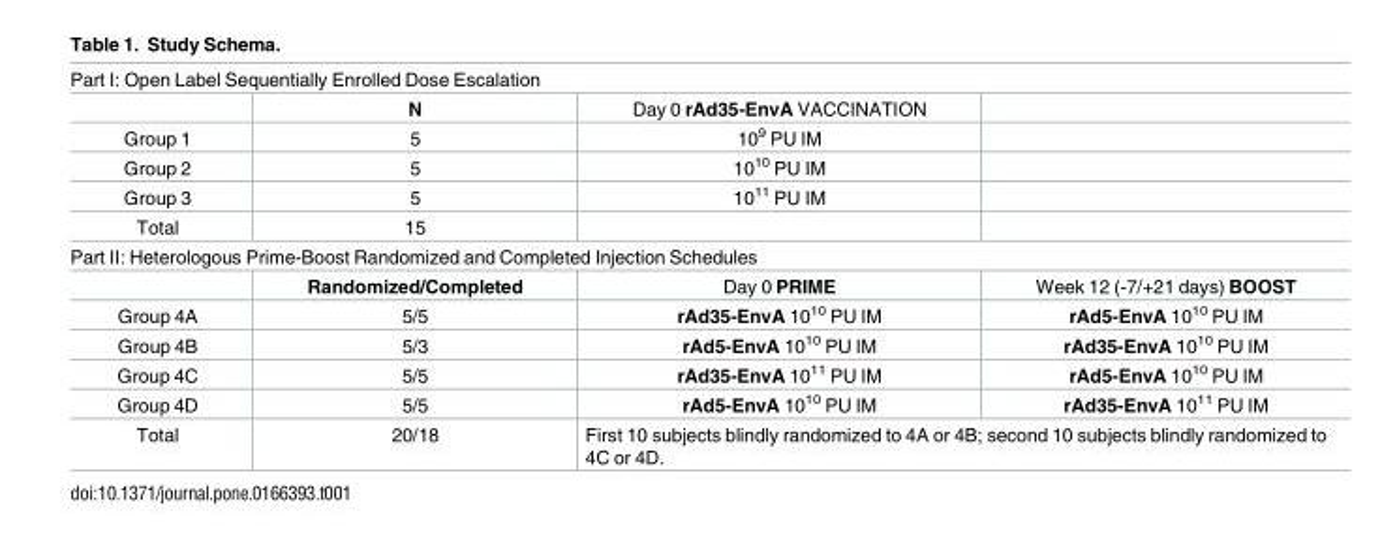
<table><tbody><tr><td colspan="4">Part I: Open Label Sequentially Enrolled Dose Escalation</td></tr><tr><td></td><td>N</td><td>Day 0 rAd35-EnvA VACCINATION</td><td></td></tr><tr><td>Group 1</td><td>5</td><td>10<sup>9</sup> PU IM</td><td></td></tr><tr><td>Group 2</td><td>5</td><td>10<sup>10</sup> PU IM</td><td></td></tr><tr><td>Group 3</td><td>5</td><td>10<sup>11</sup> PU IM</td><td></td></tr><tr><td>Total</td><td>15</td><td></td><td></td></tr><tr><td colspan="4">Part II: Heterologous Prime-Boost Randomized and Completed Injection Schedules</td></tr><tr><td></td><td>Randomized/Completed</td><td>Day 0 PRIME</td><td>Week 12 (-7/+21 days) BOOST</td></tr><tr><td>Group 4A</td><td>5/5</td><td>rAd35-EnvA 10<sup>10</sup> PU IM</td><td>rAd5-EnvA 10<sup>10</sup> PU IM</td></tr><tr><td>Group 4B</td><td>5/3</td><td>rAd5-EnvA 10<sup>10</sup> PU IM</td><td>rAd35-EnvA 10<sup>10</sup> PU IM</td></tr><tr><td>Group 4C</td><td>5/5</td><td>rAd35-EnvA 10<sup>11</sup> PU IM</td><td>rAd5-EnvA 10<sup>10</sup> PU IM</td></tr><tr><td>Group 4D</td><td>5/5</td><td>rAd5-EnvA 10<sup>10</sup> PU IM</td><td>rAd35-EnvA 10<sup>11</sup> PU IM</td></tr><tr><td>Total</td><td>20/18</td><td colspan="2">First 10 subjects blindly randomized to 4A or 4B; second 10 subjects blindly randomized to 4C or 4D.</td></tr></tbody></table>